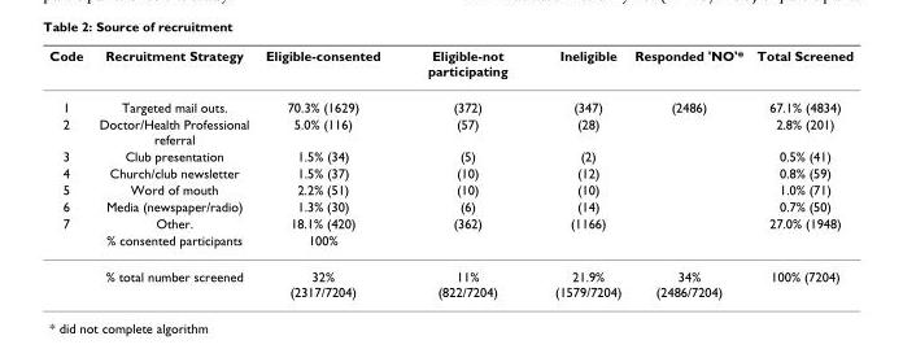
<table><thead><tr><td>Code</td><td>Recruitment Strategy</td><td>Eligible-consented</td><td>Eligible-not participating</td><td>Ineligible</td><td>Responded &#x27;NO&#x27;*</td><td>Total Screened</td></tr></thead><tbody><tr><td>1</td><td>Targeted mail outs.</td><td>70.3% (1629)</td><td>(372)</td><td>(347)</td><td>(2486)</td><td>67.1% (4834)</td></tr><tr><td>2</td><td>Doctor/Health Professional referral</td><td>5.0% (116)</td><td>(57)</td><td>(28)</td><td></td><td>2.8% (201)</td></tr><tr><td>3</td><td>Club presentation</td><td>1.5% (34)</td><td>(5)</td><td>(2)</td><td></td><td>0.5% (41)</td></tr><tr><td>4</td><td>Church/club newsletter</td><td>1.5% (37)</td><td>(10)</td><td>(12)</td><td></td><td>0.8% (59)</td></tr><tr><td>5</td><td>Word of mouth</td><td>2.2% (51)</td><td>(10)</td><td>(10)</td><td></td><td>1.0% (71)</td></tr><tr><td>6</td><td>Media (newspaper/radio)</td><td>1.3% (30)</td><td>(6)</td><td>(14)</td><td></td><td>0.7% (50)</td></tr><tr><td rowspan="3">7</td><td>Other.</td><td>18.1% (420)</td><td>(362)</td><td>(1166)</td><td></td><td>27.0% (1948)</td></tr><tr><td>% consented participants</td><td>100%</td><td></td><td></td><td></td><td></td></tr><tr><td>% total number screened</td><td>32% (2317/7204)</td><td>11% (822/7204)</td><td>21.9% (1579/7204)</td><td>34% (2486/7204)</td><td>100% (7204)</td></tr></tbody></table>